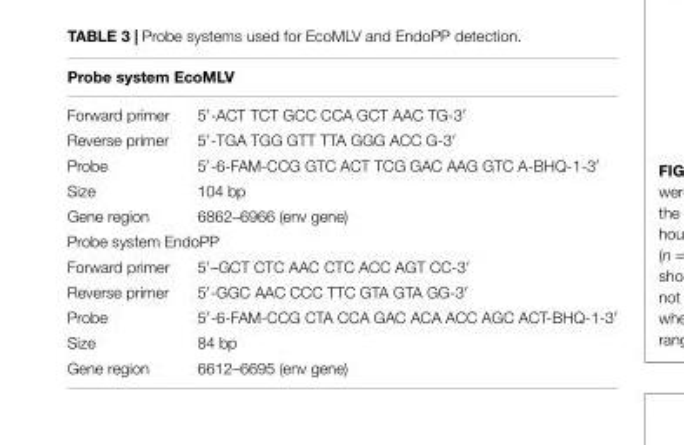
<table><thead><tr><td colspan="2">Probe system EcoMLV</td></tr><tr><td>Forward primer</td><td>5′-ACT TCT GCC CCA GCT AAC TG-3′</td></tr></thead><tbody><tr><td>Reverse primer</td><td>5′-TGA TGG GTT TTA GGG ACC G-3′</td></tr><tr><td>Probe</td><td>5′-6-FAM-CCG GTC ACT TCG GAC AAG GTC A-BHQ-1-3′</td></tr><tr><td>Size</td><td>104 bp</td></tr><tr><td>Gene region</td><td>6862–6966 (env gene)</td></tr><tr><td colspan="2">Probe system EndoPP</td></tr><tr><td>Forward primer</td><td>5′–GCT CTC AAC CTC ACC AGT CC-3′</td></tr><tr><td>Reverse primer</td><td>5′-GGC AAC CCC TTC GTA GTA GG-3′</td></tr><tr><td>Probe</td><td>5′-6-FAM-CCG CTA CCA GAC ACA ACC AGC ACT-BHQ-1-3′</td></tr><tr><td>Size</td><td>84 bp</td></tr><tr><td>Gene region</td><td>6612–6695 (env gene)</td></tr></tbody></table>